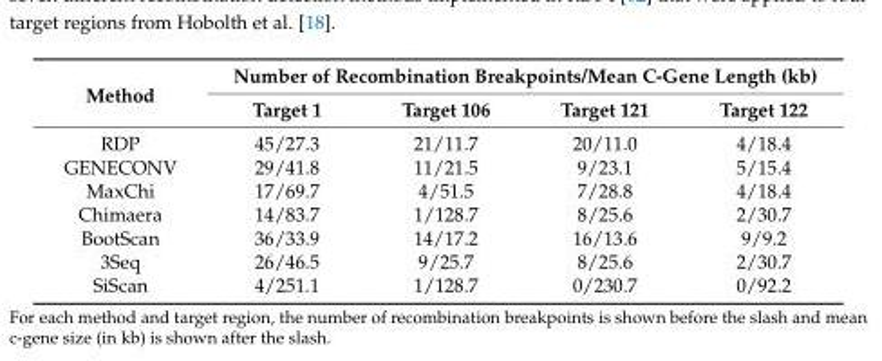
<table><thead><tr><td rowspan="2">Method</td><td colspan="4">Number of Recombination Breakpoints/Mean C-Gene Length (kb)</td></tr><tr><td>Target 1</td><td>Target 106</td><td>Target 121</td><td>Target 122</td></tr></thead><tbody><tr><td>RDP</td><td>45/27.3</td><td>21/11.7</td><td>20/11.0</td><td>4/18.4</td></tr><tr><td>GENECONV</td><td>29/41.8</td><td>11/21.5</td><td>9/23.1</td><td>5/15.4</td></tr><tr><td>MaxChi</td><td>17/69.7</td><td>4/51.5</td><td>7/28.8</td><td>4/18.4</td></tr><tr><td>Chimaera</td><td>14/83.7</td><td>1/128.7</td><td>8/25.6</td><td>2/30.7</td></tr><tr><td>BootScan</td><td>36/33.9</td><td>14/17.2</td><td>16/13.6</td><td>9/9.2</td></tr><tr><td>3Seq</td><td>26/46.5</td><td>9/25.7</td><td>8/25.6</td><td>2/30.7</td></tr><tr><td>SiScan</td><td>4/251.1</td><td>1/128.7</td><td>0/230.7</td><td>0/92.2</td></tr></tbody></table>